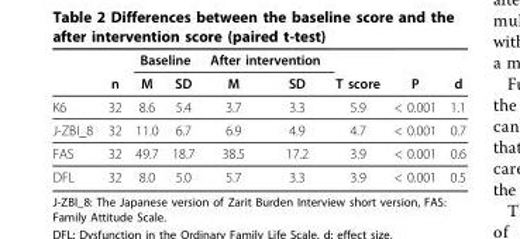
<table><thead><tr><td rowspan="2"></td><td rowspan="2">n</td><td colspan="2">Baseline</td><td colspan="2">After intervention</td><td rowspan="2">T score</td><td rowspan="2">P</td><td rowspan="2">d</td></tr><tr><td>M</td><td>SD</td><td>M</td><td>SD</td></tr></thead><tbody><tr><td>K6</td><td>32</td><td>8.6</td><td>5.4</td><td>3.7</td><td>3.3</td><td>5.9</td><td>&lt; 0.001</td><td>1.1</td></tr><tr><td>J-ZBI_8</td><td>32</td><td>11.0</td><td>6.7</td><td>6.9</td><td>4.9</td><td>4.7</td><td>&lt; 0.001</td><td>0.7</td></tr><tr><td>FAS</td><td>32</td><td>49.7</td><td>18.7</td><td>38.5</td><td>17.2</td><td>3.9</td><td>&lt; 0.001</td><td>0.6</td></tr><tr><td>DFL</td><td>32</td><td>8.0</td><td>5.0</td><td>5.7</td><td>3.3</td><td>3.9</td><td>&lt; 0.001</td><td>0.5</td></tr></tbody></table>